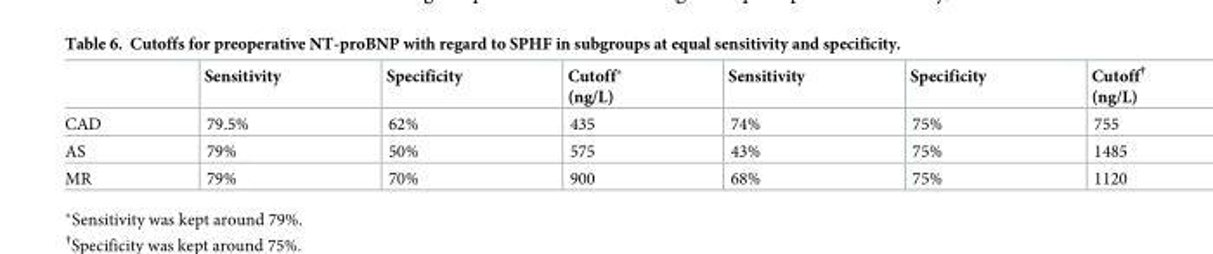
<table><thead><tr><td></td><td>Sensitivity</td><td>Specificity</td><td>Cutoff* (ng/L)</td><td>Sensitivity</td><td>Specificity</td><td>Cutoff<sup>†</sup> (ng/L)</td></tr></thead><tbody><tr><td>CAD</td><td>79.5%</td><td>62%</td><td>435</td><td>74%</td><td>75%</td><td>755</td></tr><tr><td>AS</td><td>79%</td><td>50%</td><td>575</td><td>43%</td><td>75%</td><td>1485</td></tr><tr><td>MR</td><td>79%</td><td>70%</td><td>900</td><td>68%</td><td>75%</td><td>1120</td></tr></tbody></table>